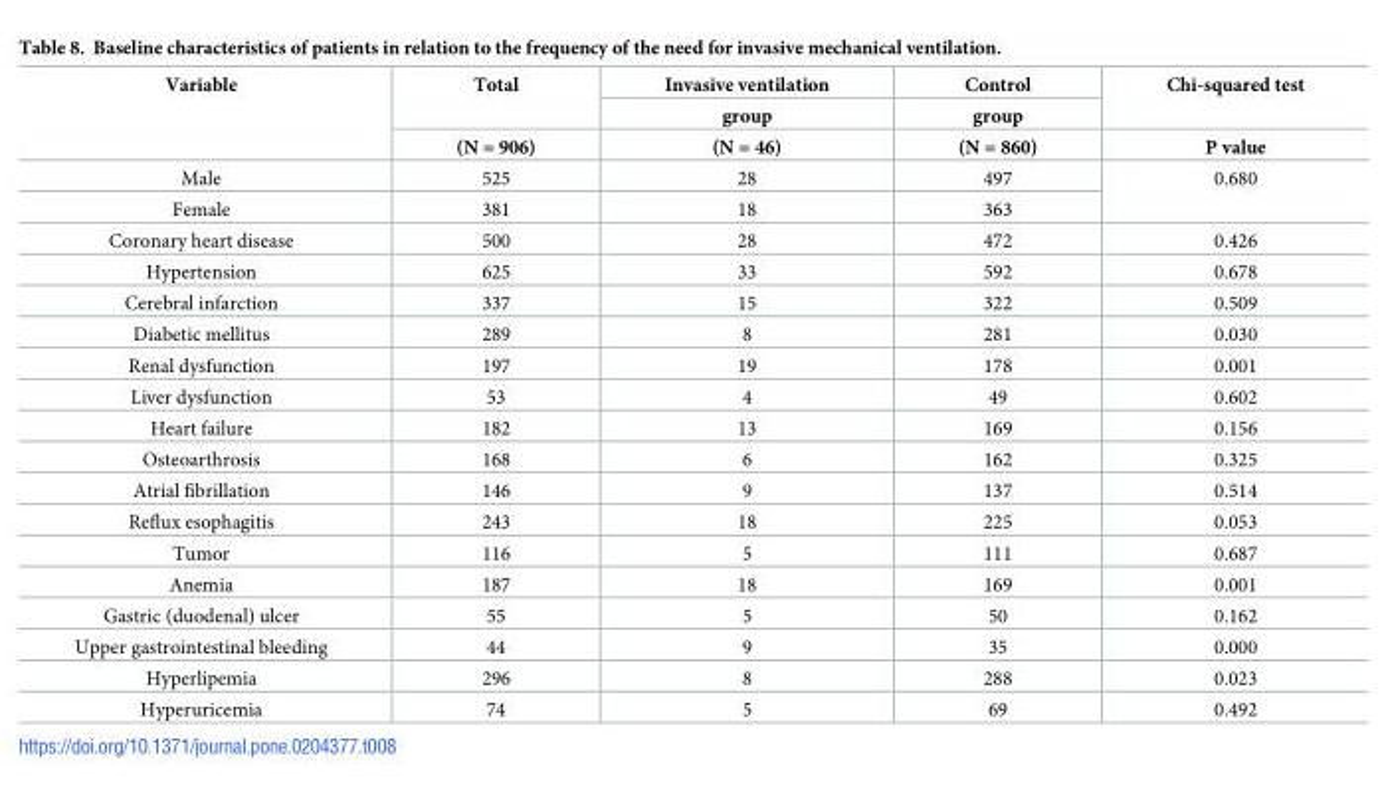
<table><thead><tr><td rowspan="3">Variable</td><td rowspan="3">Total (N = 906)</td><td rowspan="3">Invasive ventilation group (N = 46)</td><td rowspan="3">Control group (N = 860)</td><td rowspan="3">Chi-squared test P value</td></tr><tr></tr><tr></tr></thead><tbody><tr><td>Male</td><td>525</td><td>28</td><td>497</td><td rowspan="2">0.680</td></tr><tr><td>Female</td><td>381</td><td>18</td><td>363</td></tr><tr><td>Coronary heart disease</td><td>500</td><td>28</td><td>472</td><td>0.426</td></tr><tr><td>Hypertension</td><td>625</td><td>33</td><td>592</td><td>0.678</td></tr><tr><td>Cerebral infarction</td><td>337</td><td>15</td><td>322</td><td>0.509</td></tr><tr><td>Diabetic mellitus</td><td>289</td><td>8</td><td>281</td><td>0.030</td></tr><tr><td>Renal dysfunction</td><td>197</td><td>19</td><td>178</td><td>0.001</td></tr><tr><td>Liver dysfunction</td><td>53</td><td>4</td><td>49</td><td>0.602</td></tr><tr><td>Heart failure</td><td>182</td><td>13</td><td>169</td><td>0.156</td></tr><tr><td>Osteoarthrosis</td><td>168</td><td>6</td><td>162</td><td>0.325</td></tr><tr><td>Atrial fibrillation</td><td>146</td><td>9</td><td>137</td><td>0.514</td></tr><tr><td>Reflux esophagitis</td><td>243</td><td>18</td><td>225</td><td>0.053</td></tr><tr><td>Tumor</td><td>116</td><td>5</td><td>111</td><td>0.687</td></tr><tr><td>Anemia</td><td>187</td><td>18</td><td>169</td><td>0.001</td></tr><tr><td>Gastric (duodenal) ulcer</td><td>55</td><td>5</td><td>50</td><td>0.162</td></tr><tr><td>Upper gastrointestinal bleeding</td><td>44</td><td>9</td><td>35</td><td>0.000</td></tr><tr><td>Hyperlipemia</td><td>296</td><td>8</td><td>288</td><td>0.023</td></tr><tr><td>Hyperuricemia</td><td>74</td><td>5</td><td>69</td><td>0.492</td></tr></tbody></table>